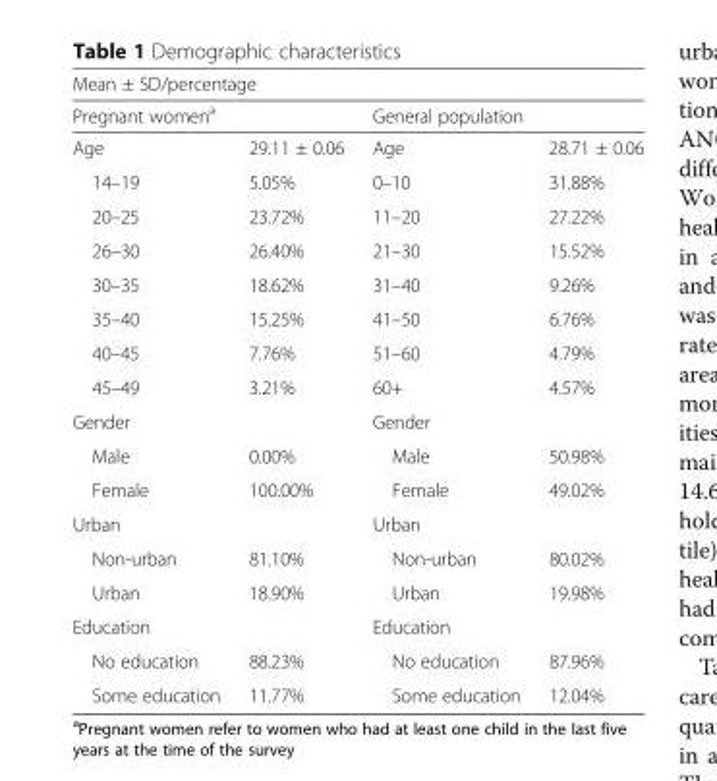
<table><thead><tr><td colspan="4">Mean ± SD/percentage</td></tr><tr><td colspan="2">Pregnant women<sup>a</sup></td><td colspan="2">General population</td></tr><tr><td>Age</td><td>29.11 ± 0.06</td><td>Age</td><td>28.71 ± 0.06</td></tr></thead><tbody><tr><td>14–19</td><td>5.05%</td><td>0–10</td><td>31.88%</td></tr><tr><td>20–25</td><td>23.72%</td><td>11–20</td><td>27.22%</td></tr><tr><td>26–30</td><td>26.40%</td><td>21–30</td><td>15.52%</td></tr><tr><td>30–35</td><td>18.62%</td><td>31–40</td><td>9.26%</td></tr><tr><td>35–40</td><td>15.25%</td><td>41–50</td><td>6.76%</td></tr><tr><td>40–45</td><td>7.76%</td><td>51–60</td><td>4.79%</td></tr><tr><td>45–49</td><td>3.21%</td><td>60+</td><td>4.57%</td></tr><tr><td>Gender</td><td></td><td>Gender</td><td></td></tr><tr><td>Male</td><td>0.00%</td><td>Male</td><td>50.98%</td></tr><tr><td>Female</td><td>100.00%</td><td>Female</td><td>49.02%</td></tr><tr><td>Urban</td><td></td><td>Urban</td><td></td></tr><tr><td>Non-urban</td><td>81.10%</td><td>Non-urban</td><td>80.02%</td></tr><tr><td>Urban</td><td>18.90%</td><td>Urban</td><td>19.98%</td></tr><tr><td>Education</td><td></td><td>Education</td><td></td></tr><tr><td>No education</td><td>88.23%</td><td>No education</td><td>87.96%</td></tr><tr><td>Some education</td><td>11.77%</td><td>Some education</td><td>12.04%</td></tr></tbody></table>